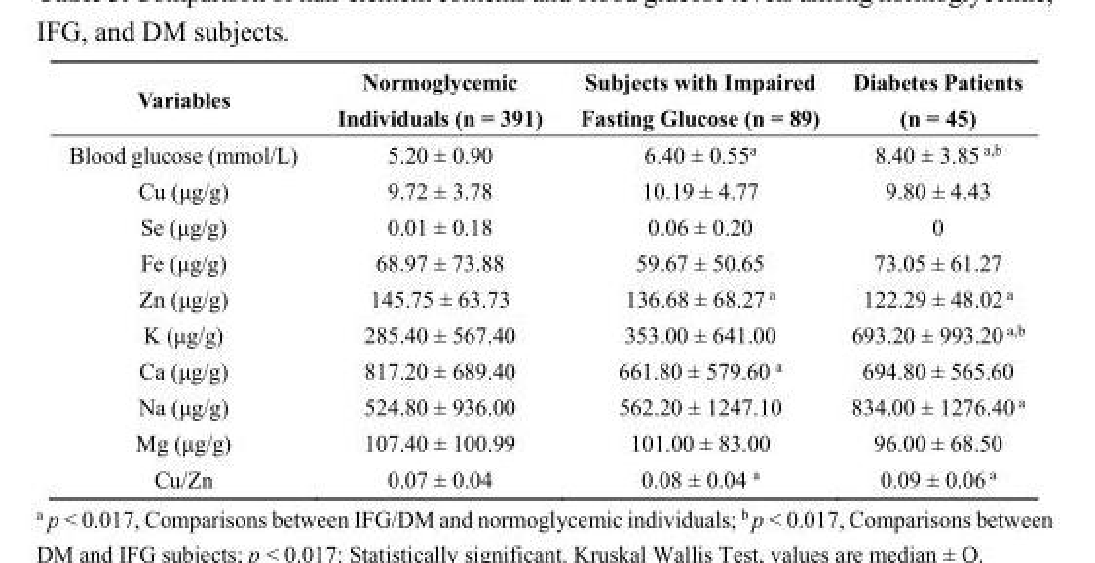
<table><thead><tr><td>Variables</td><td>Normoglycemic Individuals (n = 391)</td><td>Subjects with Impaired Fasting Glucose (n = 89)</td><td>Diabetes Patients (n = 45)</td></tr></thead><tbody><tr><td>Blood glucose (mmol/L)</td><td>5.20 ± 0.90</td><td>6.40 ± 0.55<sup>a</sup></td><td>8.40 ± 3.85 <sup>a,b</sup></td></tr><tr><td>Cu (μg/g)</td><td>9.72 ± 3.78</td><td>10.19 ± 4.77</td><td>9.80 ± 4.43</td></tr><tr><td>Se (μg/g)</td><td>0.01 ± 0.18</td><td>0.06 ± 0.20</td><td>0</td></tr><tr><td>Fe (μg/g)</td><td>68.97 ± 73.88</td><td>59.67 ± 50.65</td><td>73.05 ± 61.27</td></tr><tr><td>Zn (μg/g)</td><td>145.75 ± 63.73</td><td>136.68 ± 68.27 <sup>a</sup></td><td>122.29 ± 48.02 <sup>a</sup></td></tr><tr><td>K (μg/g)</td><td>285.40 ± 567.40</td><td>353.00 ± 641.00</td><td>693.20 ± 993.20 <sup>a,b</sup></td></tr><tr><td>Ca (μg/g)</td><td>817.20 ± 689.40</td><td>661.80 ± 579.60 <sup>a</sup></td><td>694.80 ± 565.60</td></tr><tr><td>Na (μg/g)</td><td>524.80 ± 936.00</td><td>562.20 ± 1247.10</td><td>834.00 ± 1276.40 <sup>a</sup></td></tr><tr><td>Mg (μg/g)</td><td>107.40 ± 100.99</td><td>101.00 ± 83.00</td><td>96.00 ± 68.50</td></tr><tr><td>Cu/Zn</td><td>0.07 ± 0.04</td><td>0.08 ± 0.04 <sup>a</sup></td><td>0.09 ± 0.06 <sup>a</sup></td></tr></tbody></table>